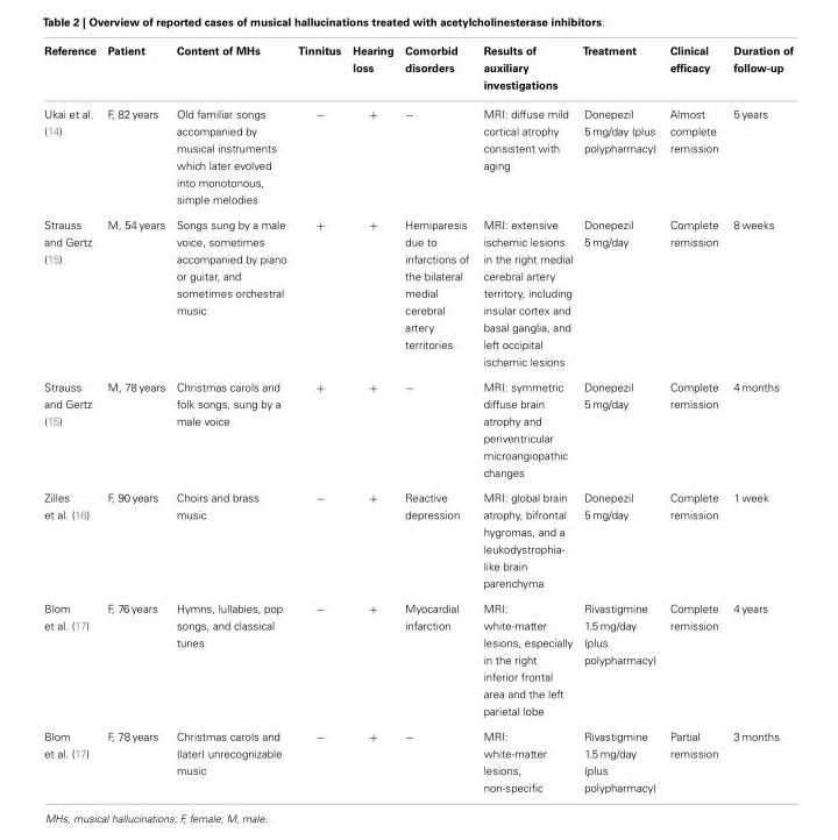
<table><thead><tr><td>Reference</td><td>Patient</td><td>Content of MHs</td><td>Tinnitus</td><td>Hearing loss</td><td>Comorbid disorders</td><td>Results of auxiliary investigations</td><td>Treatment</td><td>Clinical efficacy</td><td>Duration of follow-up</td></tr></thead><tbody><tr><td>Ukai et al. (14)</td><td>F, 82 years</td><td>Old familiar songs accompanied by musical instruments which later evolved into monotonous, simple melodies</td><td>−</td><td>+</td><td>−</td><td>MRI: diffuse mild cortical atrophy consistent with aging</td><td>Donepezil 5 mg/day (plus polypharmacy)</td><td>Almost complete remission</td><td>5 years</td></tr><tr><td>Strauss and Gertz (15)</td><td>M, 54 years</td><td>Songs sung by a male voice, sometimes accompanied by piano or guitar, and sometimes orchestral music</td><td>+</td><td>+</td><td>Hemiparesis due to infarctions of the bilateral medial cerebral artery territories</td><td>MRI: extensive ischemic lesions in the right medial cerebral artery territory, including insular cortex and basal ganglia, and left occipital ischemic lesions</td><td>Donepezil 5 mg/day</td><td>Complete remission</td><td>8 weeks</td></tr><tr><td>Strauss and Gertz (15)</td><td>M, 78 years</td><td>Christmas carols and folk songs, sung by a male voice</td><td>+</td><td>+</td><td>−</td><td>MRI: symmetric diffuse brain atrophy and periventricular microangiopathic changes</td><td>Donepezil 5 mg/day</td><td>Complete remission</td><td>4 months</td></tr><tr><td>Zilles et al. (16)</td><td>F, 90 years</td><td>Choirs and brass music</td><td>−</td><td>+</td><td>Reactive depression</td><td>MRI: global brain atrophy, bifrontal hygromas, and a leukodystrophia- like brain parenchyma</td><td>Donepezil 5 mg/day</td><td>Complete remission</td><td>1 week</td></tr><tr><td>Blom et al. (17)</td><td>F, 76 years</td><td>Hymns, lullabies, pop songs, and classical tunes</td><td>−</td><td>+</td><td>Myocardial infarction</td><td>MRI: white-matter lesions, especially in the right inferior frontal area and the left parietal lobe</td><td>Rivastigmine 1.5 mg/day (plus polypharmacy)</td><td>Complete remission</td><td>4 years</td></tr><tr><td>Blom et al. (17)</td><td>F, 78 years</td><td>Christmas carols and (later) unrecognizable music</td><td>−</td><td>+</td><td>−</td><td>MRI: white-matter lesions, non-specific</td><td>Rivastigmine 1.5 mg/day (plus polypharmacy)</td><td>Partial remission</td><td>3 months</td></tr></tbody></table>